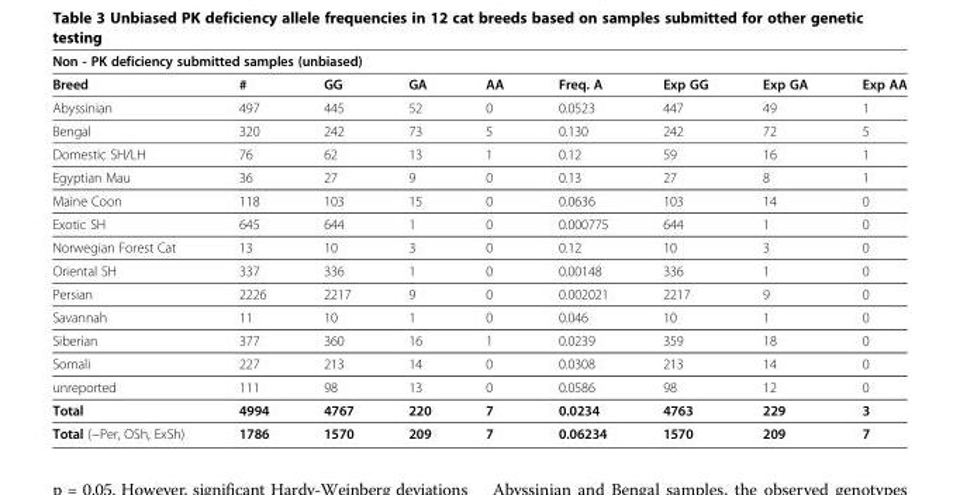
<table><thead><tr><td colspan="9">Non - PK deficiency submitted samples (unbiased)</td></tr><tr><td>Breed</td><td>#</td><td>GG</td><td>GA</td><td>AA</td><td>Freq. A</td><td>Exp GG</td><td>Exp GA</td><td>Exp AA</td></tr></thead><tbody><tr><td>Abyssinian</td><td>497</td><td>445</td><td>52</td><td>0</td><td>0.0523</td><td>447</td><td>49</td><td>1</td></tr><tr><td>Bengal</td><td>320</td><td>242</td><td>73</td><td>5</td><td>0.130</td><td>242</td><td>72</td><td>5</td></tr><tr><td>Domestic SH/LH</td><td>76</td><td>62</td><td>13</td><td>1</td><td>0.12</td><td>59</td><td>16</td><td>1</td></tr><tr><td>Egyptian Mau</td><td>36</td><td>27</td><td>9</td><td>0</td><td>0.13</td><td>27</td><td>8</td><td>1</td></tr><tr><td>Maine Coon</td><td>118</td><td>103</td><td>15</td><td>0</td><td>0.0636</td><td>103</td><td>14</td><td>0</td></tr><tr><td>Exotic SH</td><td>645</td><td>644</td><td>1</td><td>0</td><td>0.000775</td><td>644</td><td>1</td><td>0</td></tr><tr><td>Norwegian Forest Cat</td><td>13</td><td>10</td><td>3</td><td>0</td><td>0.12</td><td>10</td><td>3</td><td>0</td></tr><tr><td>Oriental SH</td><td>337</td><td>336</td><td>1</td><td>0</td><td>0.00148</td><td>336</td><td>1</td><td>0</td></tr><tr><td>Persian</td><td>2226</td><td>2217</td><td>9</td><td>0</td><td>0.002021</td><td>2217</td><td>9</td><td>0</td></tr><tr><td>Savannah</td><td>11</td><td>10</td><td>1</td><td>0</td><td>0.046</td><td>10</td><td>1</td><td>0</td></tr><tr><td>Siberian</td><td>377</td><td>360</td><td>16</td><td>1</td><td>0.0239</td><td>359</td><td>18</td><td>0</td></tr><tr><td>Somali</td><td>227</td><td>213</td><td>14</td><td>0</td><td>0.0308</td><td>213</td><td>14</td><td>0</td></tr><tr><td>unreported</td><td>111</td><td>98</td><td>13</td><td>0</td><td>0.0586</td><td>98</td><td>12</td><td>0</td></tr><tr><td>Total</td><td>4994</td><td>4767</td><td>220</td><td>7</td><td>0.0234</td><td>4763</td><td>229</td><td>3</td></tr><tr><td>Total (−Per, OSh, ExSh)</td><td>1786</td><td>1570</td><td>209</td><td>7</td><td>0.06234</td><td>1570</td><td>209</td><td>7</td></tr></tbody></table>